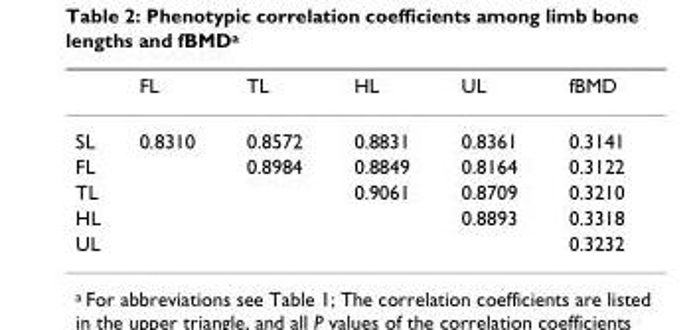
<table><thead><tr><td></td><td>FL</td><td>TL</td><td>HL</td><td>UL</td><td>fBMD</td></tr></thead><tbody><tr><td>SL</td><td>0.8310</td><td>0.8572</td><td>0.8831</td><td>0.8361</td><td>0.3141</td></tr><tr><td>FL</td><td></td><td>0.8984</td><td>0.8849</td><td>0.8164</td><td>0.3122</td></tr><tr><td>TL</td><td></td><td></td><td>0.9061</td><td>0.8709</td><td>0.3210</td></tr><tr><td>HL</td><td></td><td></td><td></td><td>0.8893</td><td>0.3318</td></tr><tr><td>UL</td><td></td><td></td><td></td><td></td><td>0.3232</td></tr></tbody></table>